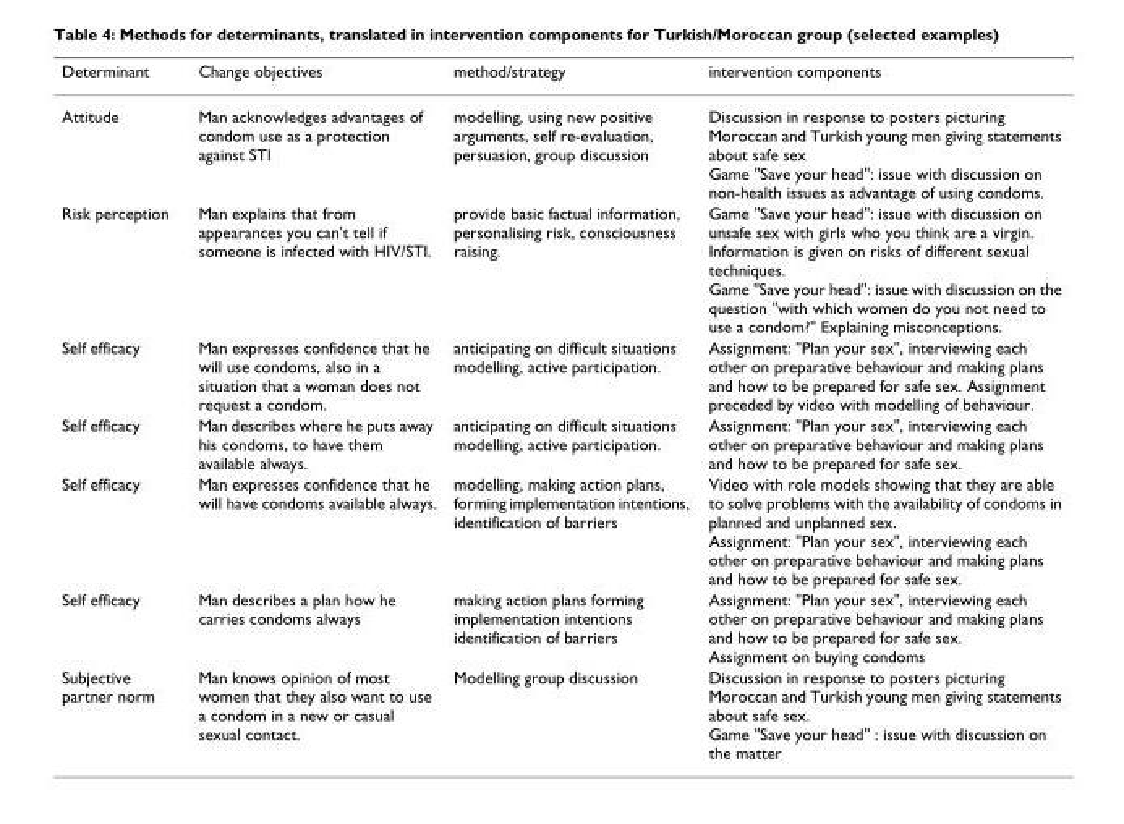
<table><thead><tr><td>Determinant</td><td>Change objectives</td><td>method/strategy</td><td>intervention components</td></tr></thead><tbody><tr><td>Attitude</td><td>Man acknowledges advantages of condom use as a protection against STI</td><td>modelling, using new positive arguments, self re-evaluation, persuasion, group discussion</td><td>Discussion in response to posters picturing Moroccan and Turkish young men giving statements about safe sex Game &quot;Save your head&quot;: issue with discussion on non-health issues as advantage of using condoms.</td></tr><tr><td>Risk perception</td><td>Man explains that from appearances you can&#x27;t tell if someone is infected with HIV/STI.</td><td>provide basic factual information, personalising risk, consciousness raising.</td><td>Game &quot;Save your head&quot;: issue with discussion on unsafe sex with girls who you think are a virgin. Information is given on risks of different sexual techniques. Game &quot;Save your head&quot;: issue with discussion on the question &quot;with which women do you not need to use a condom?&quot; Explaining misconceptions.</td></tr><tr><td>Self efficacy</td><td>Man expresses confidence that he will use condoms, also in a situation that a woman does not request a condom.</td><td>anticipating on difficult situations modelling, active participation.</td><td>Assignment: &quot;Plan your sex&quot;, interviewing each other on preparative behaviour and making plans and how to be prepared for safe sex. Assignment preceded by video with modelling of behaviour.</td></tr><tr><td>Self efficacy</td><td>Man describes where he puts away his condoms, to have them available always.</td><td>anticipating on difficult situations modelling, active participation.</td><td>Assignment: &quot;Plan your sex&quot;, interviewing each other on preparative behaviour and making plans and how to be prepared for safe sex.</td></tr><tr><td>Self efficacy</td><td>Man expresses confidence that he will have condoms available always.</td><td>modelling, making action plans, forming implementation intentions, identification of barriers</td><td>Video with role models showing that they are able to solve problems with the availability of condoms in planned and unplanned sex. Assignment: &quot;Plan your sex&quot;, interviewing each other on preparative behaviour and making plans and how to be prepared for safe sex.</td></tr><tr><td>Self efficacy</td><td>Man describes a plan how he carries condoms always</td><td>making action plans forming implementation intentions identification of barriers</td><td>Assignment: &quot;Plan your sex&quot;, interviewing each other on preparative behaviour and making plans and how to be prepared for safe sex. Assignment on buying condoms</td></tr><tr><td>Subjective partner norm</td><td>Man knows opinion of most women that they also want to use a condom in a new or casual sexual contact.</td><td>Modelling group discussion</td><td>Discussion in response to posters picturing Moroccan and Turkish young men giving statements about safe sex. Game &quot;Save your head&quot; : issue with discussion on the matter</td></tr></tbody></table>